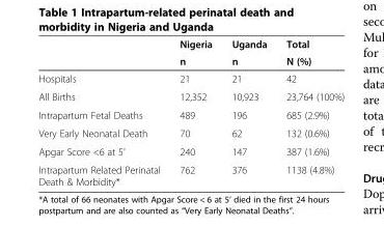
<table><thead><tr><td rowspan="2"></td><td rowspan="2">Nigeria n</td><td rowspan="2">Uganda n</td><td rowspan="2">Total N (%)</td></tr><tr></tr></thead><tbody><tr><td>Hospitals</td><td>21</td><td>21</td><td>42</td></tr><tr><td>All Births</td><td>12,352</td><td>10,923</td><td>23,764 (100%)</td></tr><tr><td>Intrapartum Fetal Deaths</td><td>489</td><td>196</td><td>685 (2.9%)</td></tr><tr><td>Very Early Neonatal Death</td><td>70</td><td>62</td><td>132 (0.6%)</td></tr><tr><td>Apgar Score &lt;6 at 5’</td><td>240</td><td>147</td><td>387 (1.6%)</td></tr><tr><td>Intrapartum Related Perinatal Death &amp; Morbidity*</td><td>762</td><td>376</td><td>1138 (4.8%)</td></tr></tbody></table>